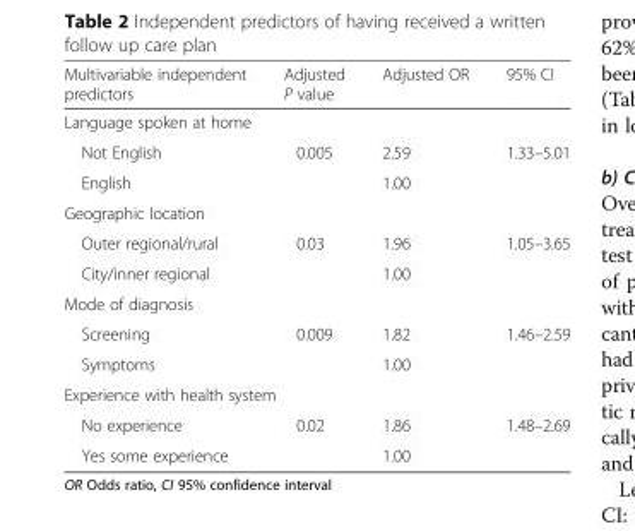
<table><thead><tr><td>Multivariable independent predictors</td><td>Adjusted P value</td><td>Adjusted OR</td><td>95% CI</td></tr></thead><tbody><tr><td colspan="4">Language spoken at home</td></tr><tr><td>Not English</td><td>0.005</td><td>2.59</td><td>1.33–5.01</td></tr><tr><td>English</td><td></td><td>1.00</td><td></td></tr><tr><td colspan="4">Geographic location</td></tr><tr><td>Outer regional/rural</td><td>0.03</td><td>1.96</td><td>1.05–3.65</td></tr><tr><td>City/inner regional</td><td></td><td>1.00</td><td></td></tr><tr><td colspan="4">Mode of diagnosis</td></tr><tr><td>Screening</td><td>0.009</td><td>1.82</td><td>1.46–2.59</td></tr><tr><td>Symptoms</td><td></td><td>1.00</td><td></td></tr><tr><td colspan="4">Experience with health system</td></tr><tr><td>No experience</td><td>0.02</td><td>1.86</td><td>1.48–2.69</td></tr><tr><td>Yes some experience</td><td></td><td>1.00</td><td></td></tr></tbody></table>